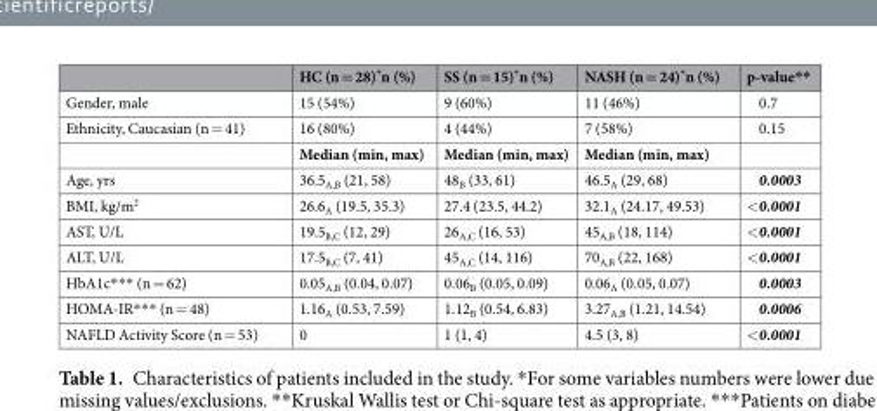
<table><thead><tr><td></td><td>HC (n = 28)*n (%)</td><td>SS (n = 15)*n (%)</td><td>NASH (n = 24)*n (%)</td><td>p-value**</td></tr></thead><tbody><tr><td>Gender, male</td><td>15 (54%)</td><td>9 (60%)</td><td>11 (46%)</td><td>0.7</td></tr><tr><td rowspan="2">Ethnicity, Caucasian (n = 41)</td><td>16 (80%)</td><td>4 (44%)</td><td>7 (58%)</td><td>0.15</td></tr><tr><td>Median (min, max)</td><td>Median (min, max)</td><td>Median (min, max)</td><td></td></tr><tr><td>Age, yrs</td><td>36.5<sub>A,B</sub> (21, 58)</td><td>48<sub>B</sub> (33, 61)</td><td>46.5<sub>A</sub> (29, 68)</td><td>0.0003</td></tr><tr><td>BMI, kg/m<sup>2</sup></td><td>26.6<sub>A</sub> (19.5, 35.3)</td><td>27.4 (23.5, 44.2)</td><td>32.1<sub>A</sub> (24.17, 49.53)</td><td>&lt;0.0001</td></tr><tr><td>AST, U/L</td><td>19.5<sub>B,C</sub> (12, 29)</td><td>26<sub>A,C</sub> (16, 53)</td><td>45<sub>A,B</sub> (18, 114)</td><td>&lt;0.0001</td></tr><tr><td>ALT, U/L</td><td>17.5<sub>B,C</sub> (7, 41)</td><td>45<sub>A,C</sub> (14, 116)</td><td>70<sub>A,B</sub> (22, 168)</td><td>&lt;0.0001</td></tr><tr><td>HbA1c*** (n = 62)</td><td>0.05<sub>A,B</sub> (0.04, 0.07)</td><td>0.06<sub>B</sub> (0.05, 0.09)</td><td>0.06<sub>A</sub> (0.05, 0.07)</td><td>0.0003</td></tr><tr><td>HOMA-IR*** (n = 48)</td><td>1.16<sub>A</sub> (0.53, 7.59)</td><td>1.12<sub>B</sub> (0.54, 6.83)</td><td>3.27<sub>A,B</sub> (1.21, 14.54)</td><td>0.0006</td></tr><tr><td>NAFLD Activity Score (n = 53)</td><td>0</td><td>1 (1, 4)</td><td>4.5 (3, 8)</td><td>&lt;0.0001</td></tr></tbody></table>